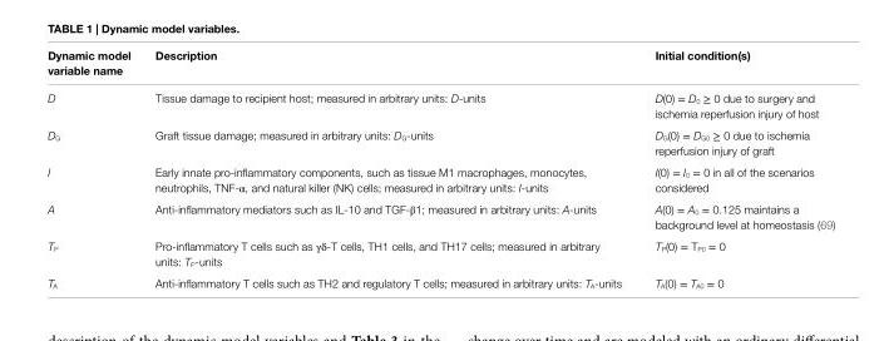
<table><thead><tr><td>Dynamic model variable name</td><td>Description</td><td>initial condition(s)</td></tr></thead><tbody><tr><td>D</td><td>Tissue damage to recipient host; measured in arbitrary units: D-units</td><td>D(0) = D<sub>0</sub> ≥ 0 due to surgery and ischemia reperfusion injury of host</td></tr><tr><td>D<sub>G</sub></td><td>Graft tissue damage; measured in arbitrary units: D<sub>G</sub>-units</td><td>D<sub>G</sub>(0) = D<sub>G0</sub> ≥ 0 due to ischemia reperfusion injury of graft</td></tr><tr><td>I</td><td>Early innate pro-inflammatory components, such as tissue M1 macrophages, monocytes, neutrophils, TNF-α, and natural killer (NK) cells; measured in arbitrary units: I-units</td><td>I(0) = I<sub>0</sub> = 0 in all of the scenarios considered</td></tr><tr><td>A</td><td>Anti-inflammatory mediators such as IL-10 and TGF-β1; measured in arbitrary units: A-units</td><td>A(0) = A<sub>0</sub> = 0.125 maintains a background level at homeostasis (69)</td></tr><tr><td>T<sub>P</sub></td><td>Pro-inflammatory T cells such as γδ-T cells, TH1 cells, and TH17 cells; measured in arbitrary units: T<sub>P</sub>-units</td><td>T<sub>P</sub>(0) = T<sub>P0</sub> = 0</td></tr><tr><td>T<sub>A</sub></td><td>Anti-inflammatory T cells such as TH2 and regulatory T cells; measured in arbitrary units: T<sub>A</sub>-units</td><td>T<sub>A</sub>(0) = T<sub>A0</sub> = 0</td></tr></tbody></table>